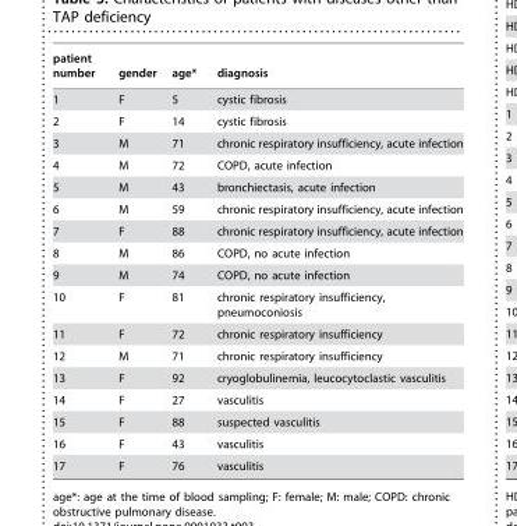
<table><thead><tr><td>patient number</td><td>gender</td><td>age*</td><td>diagnosis</td></tr></thead><tbody><tr><td>1</td><td>F</td><td>5</td><td>cystic fibrosis</td></tr><tr><td>2</td><td>F</td><td>14</td><td>cystic fibrosis</td></tr><tr><td>3</td><td>M</td><td>71</td><td>chronic respiratory insufficiency, acute infection</td></tr><tr><td>4</td><td>M</td><td>72</td><td>COPD, acute infection</td></tr><tr><td>5</td><td>M</td><td>43</td><td>bronchiectasis, acute infection</td></tr><tr><td>6</td><td>M</td><td>59</td><td>chronic respiratory insufficiency, acute infection</td></tr><tr><td>7</td><td>F</td><td>88</td><td>chronic respiratory insufficiency, acute infection</td></tr><tr><td>8</td><td>M</td><td>86</td><td>COPD, no acute infection</td></tr><tr><td>9</td><td>M</td><td>74</td><td>COPD, no acute infection</td></tr><tr><td>10</td><td>F</td><td>81</td><td>chronic respiratory insufficiency, pneumoconiosis</td></tr><tr><td>11</td><td>F</td><td>72</td><td>chronic respiratory insufficiency</td></tr><tr><td>12</td><td>M</td><td>71</td><td>chronic respiratory insufficiency</td></tr><tr><td>13</td><td>F</td><td>92</td><td>cryoglobulinemia, leucocytoclastic vasculitis</td></tr><tr><td>14</td><td>F</td><td>27</td><td>vasculitis</td></tr><tr><td>15</td><td>F</td><td>88</td><td>suspected vasculitis</td></tr><tr><td>16</td><td>F</td><td>43</td><td>vasculitis</td></tr><tr><td>17</td><td>F</td><td>76</td><td>vasculitis</td></tr></tbody></table>